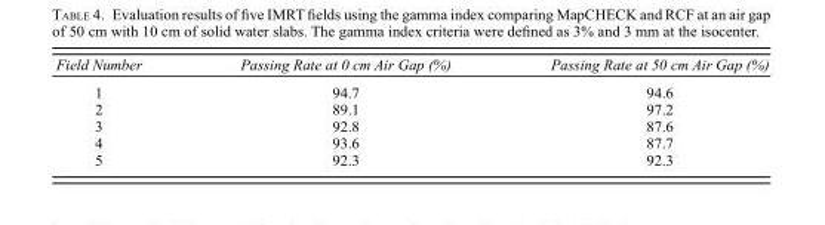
<table><thead><tr><td>Field Number</td><td>Passing Rate at 0 cm Air Gap (%)</td><td>Passing Rate at 50 cm Air Gap (%)</td></tr></thead><tbody><tr><td>1</td><td>94.7</td><td>94.6</td></tr><tr><td>2</td><td>89.1</td><td>97.2</td></tr><tr><td>3</td><td>92.8</td><td>87.6</td></tr><tr><td>4</td><td>93.6</td><td>87.7</td></tr><tr><td>5</td><td>92.3</td><td>92.3</td></tr></tbody></table>